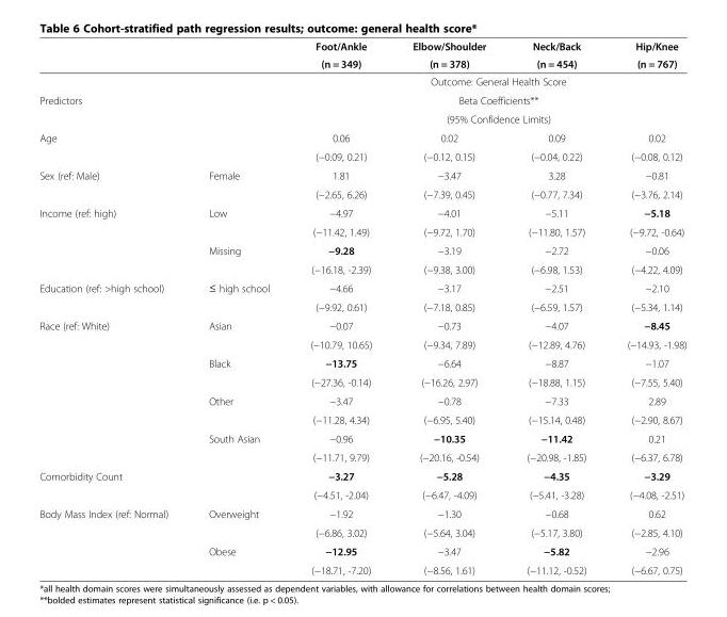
<table><thead><tr><td rowspan="2"></td><td rowspan="2"></td><td rowspan="2">Foot/Ankle (n = 349)</td><td rowspan="2">Elbow/Shoulder (n = 378)</td><td rowspan="2">Neck/Back (n = 454)</td><td rowspan="2">Hip/Knee (n = 767)</td></tr><tr></tr></thead><tbody><tr><td></td><td></td><td></td><td colspan="2">Outcome: General Health Score</td><td></td></tr><tr><td rowspan="2">Predictors</td><td rowspan="2"></td><td></td><td colspan="2">Beta Coefficients**</td><td></td></tr><tr><td></td><td colspan="2">(95% Confidence Limits)</td><td></td></tr><tr><td rowspan="2">Age</td><td></td><td>0.06</td><td>0.02</td><td>0.09</td><td>0.02</td></tr><tr><td></td><td>(−0.09, 0.21)</td><td>(−0.12, 0.15)</td><td>(−0.04, 0.22)</td><td>(−0.08, 0.12)</td></tr><tr><td rowspan="2">Sex (ref: Male)</td><td>Female</td><td>1.81</td><td>−3.47</td><td>3.28</td><td>−0.81</td></tr><tr><td></td><td>(−2.65, 6.26)</td><td>(−7.39, 0.45)</td><td>(−0.77, 7.34)</td><td>(−3.76, 2.14)</td></tr><tr><td rowspan="4">Income (ref: high)</td><td>Low</td><td>−4.97</td><td>−4.01</td><td>−5.11</td><td>−5.18</td></tr><tr><td></td><td>(−11.42, 1.49)</td><td>(−9.72, 1.70)</td><td>(−11.80, 1.57)</td><td>(−9.72, -0.64)</td></tr><tr><td>Missing</td><td>−9.28</td><td>−3.19</td><td>−2.72</td><td>−0.06</td></tr><tr><td></td><td>(−16.18, -2.39)</td><td>(−9.38, 3.00)</td><td>(−6.98, 1.53)</td><td>(−4.22, 4.09)</td></tr><tr><td rowspan="2">Education (ref: &gt;high school)</td><td>≤ high school</td><td>−4.66</td><td>−3.17</td><td>−2.51</td><td>−2.10</td></tr><tr><td></td><td>(−9.92, 0.61)</td><td>(−7.18, 0.85)</td><td>(−6.59, 1.57)</td><td>(−5.34, 1.14)</td></tr><tr><td rowspan="8">Race (ref: White)</td><td>Asian</td><td>−0.07</td><td>−0.73</td><td>−4.07</td><td>−8.45</td></tr><tr><td></td><td>(−10.79, 10.65)</td><td>(−9.34, 7.89)</td><td>(−12.89, 4.76)</td><td>(−14.93, -1.98)</td></tr><tr><td>Black</td><td>−13.75</td><td>−6.64</td><td>−8.87</td><td>−1.07</td></tr><tr><td></td><td>(−27.36, -0.14)</td><td>(−16.26, 2.97)</td><td>(−18.88, 1.15)</td><td>(−7.55, 5.40)</td></tr><tr><td>Other</td><td>−3.47</td><td>−0.78</td><td>−7.33</td><td>2.89</td></tr><tr><td></td><td>(−11.28, 4.34)</td><td>(−6.95, 5.40)</td><td>(−15.14, 0.48)</td><td>(−2.90, 8.67)</td></tr><tr><td>South Asian</td><td>−0.96</td><td>−10.35</td><td>−11.42</td><td>0.21</td></tr><tr><td></td><td>(−11.71, 9.79)</td><td>(−20.16, -0.54)</td><td>(−20.98, -1.85)</td><td>(−6.37, 6.78)</td></tr><tr><td rowspan="2">Comorbidity Count</td><td></td><td>−3.27</td><td>−5.28</td><td>−4.35</td><td>−3.29</td></tr><tr><td></td><td>(−4.51, -2.04)</td><td>(−6.47, -4.09)</td><td>(−5.41, -3.28)</td><td>(−4.08, -2.51)</td></tr><tr><td rowspan="4">Body Mass Index (ref: Normal)</td><td>Overweight</td><td>−1.92</td><td>−1.30</td><td>−0.68</td><td>0.62</td></tr><tr><td></td><td>(−6.86, 3.02)</td><td>(−5.64, 3.04)</td><td>(−5.17, 3.80)</td><td>(−2.85, 4.10)</td></tr><tr><td>Obese</td><td>−12.95</td><td>−3.47</td><td>−5.82</td><td>−2.96</td></tr><tr><td></td><td>(−18.71, -7.20)</td><td>(−8.56, 1.61)</td><td>(−11.12, -0.52)</td><td>(−6.67, 0.75)</td></tr></tbody></table>